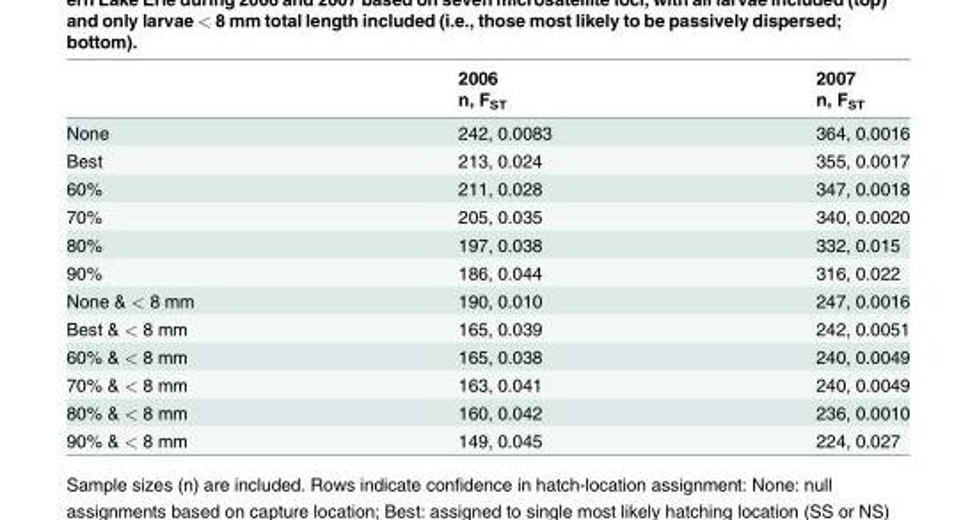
<table><thead><tr><td rowspan="2"></td><td rowspan="2">2006 n, F<sub>ST</sub></td><td rowspan="2">2007 n, F<sub>ST</sub></td></tr><tr></tr></thead><tbody><tr><td>None</td><td>242, 0.0083</td><td>364, 0.0016</td></tr><tr><td>Best</td><td>213, 0.024</td><td>355, 0.0017</td></tr><tr><td>60%</td><td>211, 0.028</td><td>347, 0.0018</td></tr><tr><td>70%</td><td>205, 0.035</td><td>340, 0.0020</td></tr><tr><td>80%</td><td>197, 0.038</td><td>332, 0.015</td></tr><tr><td>90%</td><td>186, 0.044</td><td>316, 0.022</td></tr><tr><td>None &amp; &lt; 8 mm</td><td>190, 0.010</td><td>247, 0.0016</td></tr><tr><td>Best &amp; &lt; 8 mm</td><td>165, 0.039</td><td>242, 0.0051</td></tr><tr><td>60% &amp; &lt; 8 mm</td><td>165, 0.038</td><td>240, 0.0049</td></tr><tr><td>70% &amp; &lt; 8 mm</td><td>163, 0.041</td><td>240, 0.0049</td></tr><tr><td>80% &amp; &lt; 8 mm</td><td>160, 0.042</td><td>236, 0.0010</td></tr><tr><td>90% &amp; &lt; 8 mm</td><td>149, 0.045</td><td>224, 0.027</td></tr></tbody></table>